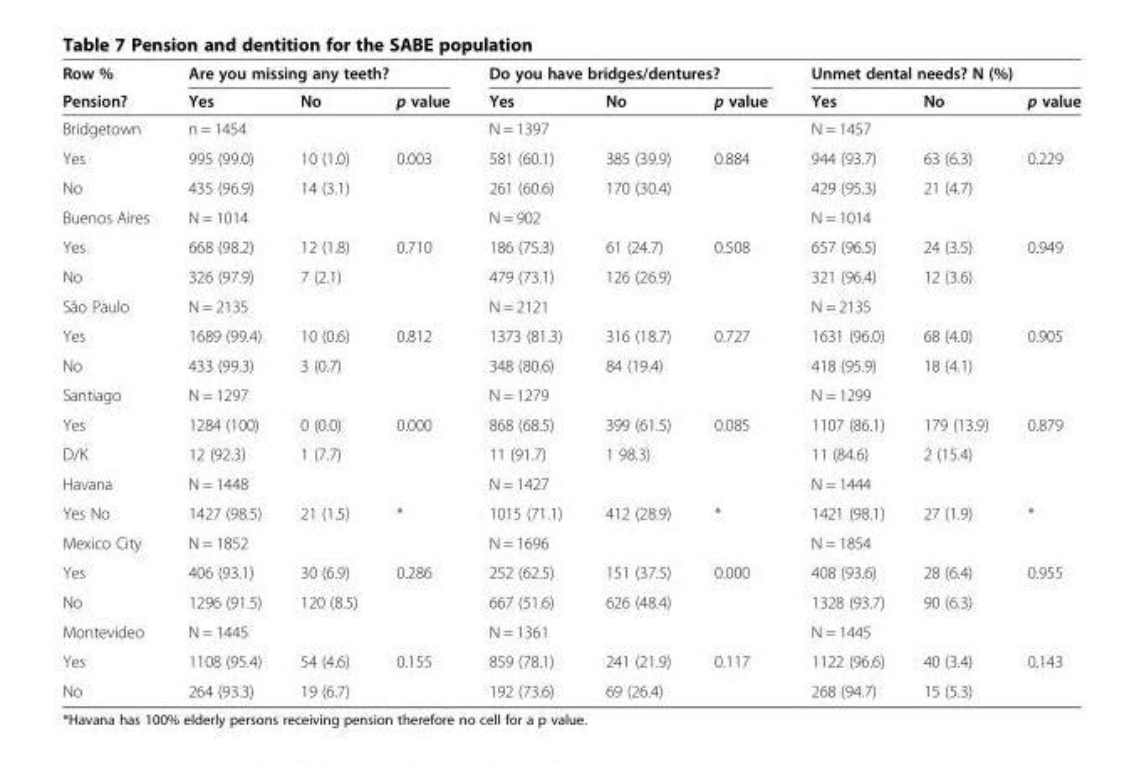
<table><thead><tr><td rowspan="2">Row % Pension?</td><td colspan="3">Are you missing any teeth?</td><td colspan="3">Do you have bridges/dentures?</td><td colspan="3">Unmet dental needs? N (%)</td></tr><tr><td>Yes</td><td>No</td><td>p value</td><td>Yes</td><td>No</td><td>p value</td><td>Yes</td><td>No</td><td>p value</td></tr></thead><tbody><tr><td>Bridgetown</td><td colspan="2">n = 1454</td><td></td><td colspan="2">N = 1397</td><td></td><td colspan="3">N = 1457</td></tr><tr><td>Yes</td><td>995 (99.0)</td><td>10 (1.0)</td><td>0.003</td><td>581 (60.1)</td><td>385 (39.9)</td><td>0.884</td><td>944 (93.7)</td><td>63 (6.3)</td><td>0.229</td></tr><tr><td>No</td><td>435 (96.9)</td><td>14 (3.1)</td><td></td><td>261 (60.6)</td><td>170 (30.4)</td><td></td><td>429 (95.3)</td><td>21 (4.7)</td><td></td></tr><tr><td>Buenos Aires</td><td colspan="2">N = 1014</td><td></td><td colspan="2">N = 902</td><td></td><td colspan="3">N = 1014</td></tr><tr><td>Yes</td><td>668 (98.2)</td><td>12 (1.8)</td><td>0.710</td><td>186 (75.3)</td><td>61 (24.7)</td><td>0.508</td><td>657 (96.5)</td><td>24 (3.5)</td><td>0.949</td></tr><tr><td>No</td><td>326 (97.9)</td><td>7 (2.1)</td><td></td><td>479 (73.1)</td><td>126 (26.9)</td><td></td><td>321 (96.4)</td><td>12 (3.6)</td><td></td></tr><tr><td>São Paulo</td><td colspan="2">N = 2135</td><td></td><td colspan="2">N = 2121</td><td></td><td colspan="3">N = 2135</td></tr><tr><td>Yes</td><td>1689 (99.4)</td><td>10 (0.6)</td><td>0.812</td><td>1373 (81.3)</td><td>316 (18.7)</td><td>0.727</td><td>1631 (96.0)</td><td>68 (4.0)</td><td>0.905</td></tr><tr><td>No</td><td>433 (99.3)</td><td>3 (0.7)</td><td></td><td>348 (80.6)</td><td>84 (19.4)</td><td></td><td>418 (95.9)</td><td>18 (4.1)</td><td></td></tr><tr><td>Santiago</td><td colspan="2">N = 1297</td><td></td><td colspan="2">N = 1279</td><td></td><td colspan="3">N = 1299</td></tr><tr><td>Yes</td><td>1284 (100)</td><td>0 (0.0)</td><td>0.000</td><td>868 (68.5)</td><td>399 (61.5)</td><td>0.085</td><td>1107 (86.1)</td><td>179 (13.9)</td><td>0.879</td></tr><tr><td>D/K</td><td>12 (92.3)</td><td>1 (7.7)</td><td></td><td>11 (91.7)</td><td>1 98.3)</td><td></td><td>11 (84.6)</td><td>2 (15.4)</td><td></td></tr><tr><td>Havana</td><td colspan="2">N = 1448</td><td></td><td colspan="2">N = 1427</td><td></td><td colspan="3">N = 1444</td></tr><tr><td>Yes No</td><td>1427 (98.5)</td><td>21 (1.5)</td><td>*</td><td>1015 (71.1)</td><td>412 (28.9)</td><td>*</td><td>1421 (98.1)</td><td>27 (1.9)</td><td>*</td></tr><tr><td>Mexico City</td><td colspan="2">N = 1852</td><td></td><td colspan="2">N = 1696</td><td></td><td colspan="3">N = 1854</td></tr><tr><td>Yes</td><td>406 (93.1)</td><td>30 (6.9)</td><td>0.286</td><td>252 (62.5)</td><td>151 (37.5)</td><td>0.000</td><td>408 (93.6)</td><td>28 (6.4)</td><td>0.955</td></tr><tr><td>No</td><td>1296 (91.5)</td><td>120 (8.5)</td><td></td><td>667 (51.6)</td><td>626 (48.4)</td><td></td><td>1328 (93.7)</td><td>90 (6.3)</td><td></td></tr><tr><td>Montevideo</td><td colspan="2">N = 1445</td><td></td><td colspan="2">N = 1361</td><td></td><td colspan="3">N = 1445</td></tr><tr><td>Yes</td><td>1108 (95.4)</td><td>54 (4.6)</td><td>0.155</td><td>859 (78.1)</td><td>241 (21.9)</td><td>0.117</td><td>1122 (96.6)</td><td>40 (3.4)</td><td>0.143</td></tr><tr><td>No</td><td>264 (93.3)</td><td>19 (6.7)</td><td></td><td>192 (73.6)</td><td>69 (26.4)</td><td></td><td>268 (94.7)</td><td>15 (5.3)</td><td></td></tr></tbody></table>